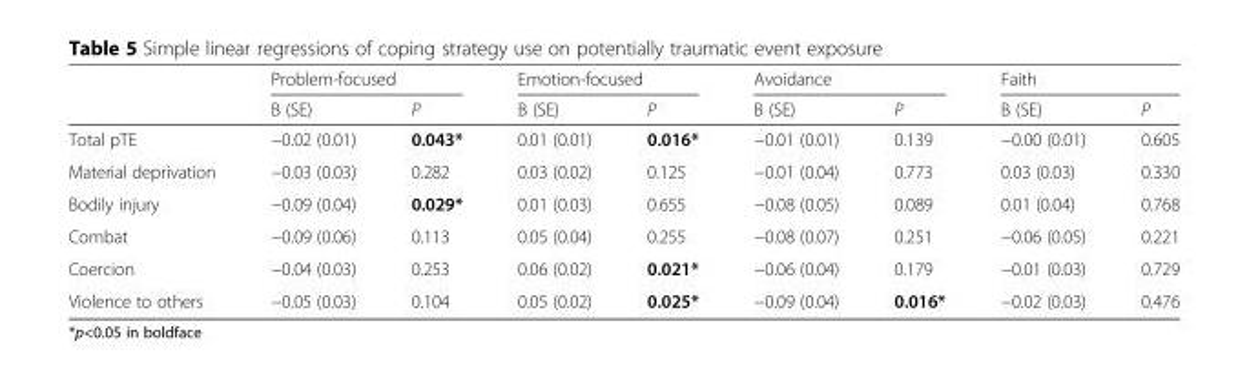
<table><thead><tr><td rowspan="2"></td><td colspan="2">Problem-focused</td><td colspan="2">Emotion-focused</td><td colspan="2">Avoidance</td><td colspan="2">Faith</td></tr><tr><td>B (SE)</td><td>P</td><td>B (SE)</td><td>P</td><td>B (SE)</td><td>P</td><td>B (SE)</td><td>P</td></tr></thead><tbody><tr><td>Total pTE</td><td>−0.02 (0.01)</td><td>0.043*</td><td>0.01 (0.01)</td><td>0.016*</td><td>−0.01 (0.01)</td><td>0.139</td><td>−0.00 (0.01)</td><td>0.605</td></tr><tr><td>Material deprivation</td><td>−0.03 (0.03)</td><td>0.282</td><td>0.03 (0.02)</td><td>0.125</td><td>−0.01 (0.04)</td><td>0.773</td><td>0.03 (0.03)</td><td>0.330</td></tr><tr><td>Bodily injury</td><td>−0.09 (0.04)</td><td>0.029*</td><td>0.01 (0.03)</td><td>0.655</td><td>−0.08 (0.05)</td><td>0.089</td><td>0.01 (0.04)</td><td>0.768</td></tr><tr><td>Combat</td><td>−0.09 (0.06)</td><td>0.113</td><td>0.05 (0.04)</td><td>0.255</td><td>−0.08 (0.07)</td><td>0.251</td><td>−0.06 (0.05)</td><td>0.221</td></tr><tr><td>Coercion</td><td>−0.04 (0.03)</td><td>0.253</td><td>0.06 (0.02)</td><td>0.021*</td><td>−0.06 (0.04)</td><td>0.179</td><td>−0.01 (0.03)</td><td>0.729</td></tr><tr><td>Violence to others</td><td>−0.05 (0.03)</td><td>0.104</td><td>0.05 (0.02)</td><td>0.025*</td><td>−0.09 (0.04)</td><td>0.016*</td><td>−0.02 (0.03)</td><td>0.476</td></tr></tbody></table>